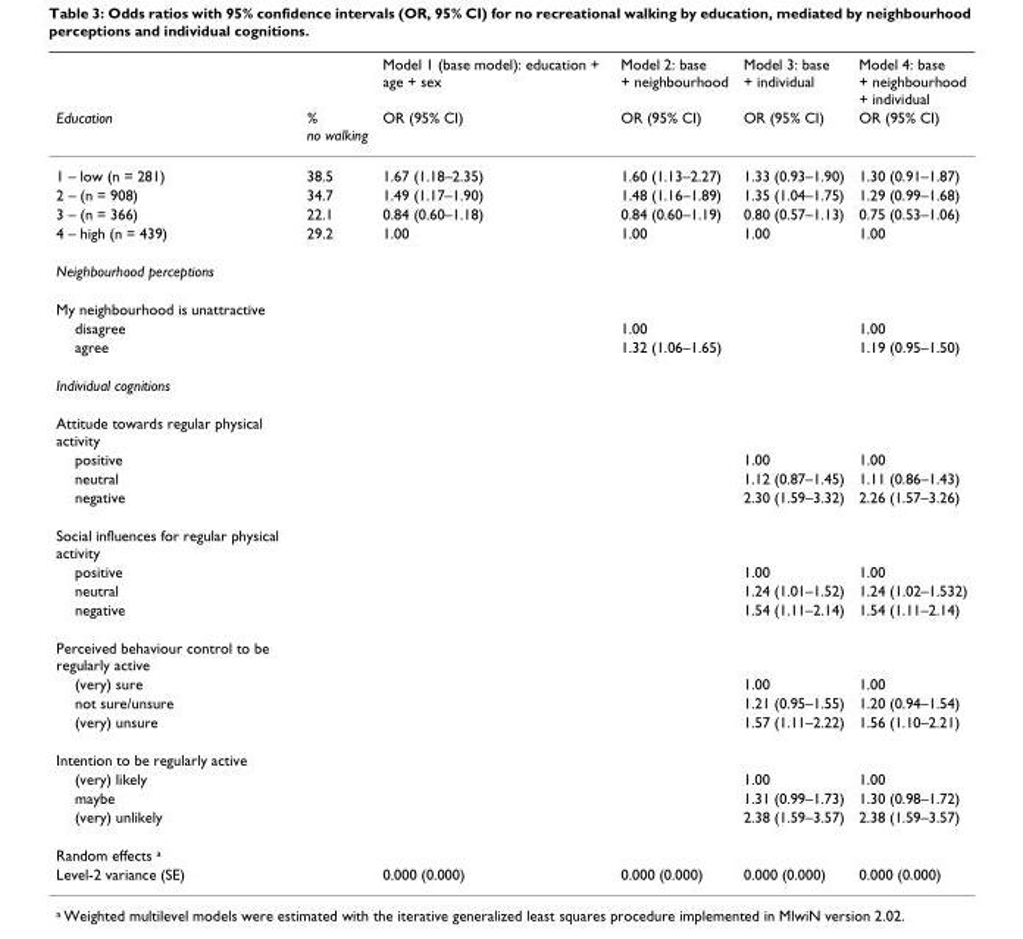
<table><thead><tr><td rowspan="2">Education</td><td rowspan="2">% no walking</td><td rowspan="2">Model 1 (base model): education + age + sex OR (95% CI)</td><td rowspan="2">Model 2: base + neighbourhood OR (95% CI)</td><td rowspan="2">Model 3: base + individual OR (95% CI)</td><td rowspan="2">Model 4: base + neighbourhood + individual OR (95% CI)</td></tr><tr></tr></thead><tbody><tr><td>1 – low (n = 281)</td><td>38.5</td><td>1.67 (1.18–2.35)</td><td>1.60 (1.13–2.27)</td><td>1.33 (0.93–1.90)</td><td>1.30 (0.91–1.87)</td></tr><tr><td>2 – (n = 908)</td><td>34.7</td><td>1.49 (1.17–1.90)</td><td>1.48 (1.16–1.89)</td><td>1.35 (1.04–1.75)</td><td>1.29 (0.99–1.68)</td></tr><tr><td>3 – (n = 366)</td><td>22.1</td><td>0.84 (0.60–1.18)</td><td>0.84 (0.60–1.19)</td><td>0.80 (0.57–1.13)</td><td>0.75 (0.53–1.06)</td></tr><tr><td>4 – high (n = 439)</td><td>29.2</td><td>1.00</td><td>1.00</td><td>1.00</td><td>1.00</td></tr><tr><td colspan="6">Neighbourhood perceptions</td></tr><tr><td colspan="6">My neighbourhood is unattractive</td></tr><tr><td>disagree</td><td></td><td></td><td>1.00</td><td></td><td>1.00</td></tr><tr><td>agree</td><td></td><td></td><td>1.32 (1.06–1.65)</td><td></td><td>1.19 (0.95–1.50)</td></tr><tr><td colspan="6">Individual cognitions</td></tr><tr><td colspan="6">Attitude towards regular physical activity</td></tr><tr><td>positive</td><td></td><td></td><td></td><td>1.00</td><td>1.00</td></tr><tr><td>neutral</td><td></td><td></td><td></td><td>1.12 (0.87–1.45)</td><td>1.11 (0.86–1.43)</td></tr><tr><td>negative</td><td></td><td></td><td></td><td>2.30 (1.59–3.32)</td><td>2.26 (1.57–3.26)</td></tr><tr><td colspan="6">Social influences for regular physical activity</td></tr><tr><td>positive</td><td></td><td></td><td></td><td>1.00</td><td>1.00</td></tr><tr><td>neutral</td><td></td><td></td><td></td><td>1.24 (1.01–1.52)</td><td>1.24 (1.02–1.532)</td></tr><tr><td>negative</td><td></td><td></td><td></td><td>1.54 (1.11–2.14)</td><td>1.54 (1.11–2.14)</td></tr><tr><td colspan="6">Perceived behaviour control to be regularly active</td></tr><tr><td>(very) sure</td><td></td><td></td><td></td><td>1.00</td><td>1.00</td></tr><tr><td>not sure/unsure</td><td></td><td></td><td></td><td>1.21 (0.95–1.55)</td><td>1.20 (0.94–1.54)</td></tr><tr><td>(very) unsure</td><td></td><td></td><td></td><td>1.57 (1.11–2.22)</td><td>1.56 (1.10–2.21)</td></tr><tr><td colspan="6">Intention to be regularly active</td></tr><tr><td>(very) likely</td><td></td><td></td><td></td><td>1.00</td><td>1.00</td></tr><tr><td>maybe</td><td></td><td></td><td></td><td>1.31 (0.99–1.73)</td><td>1.30 (0.98–1.72)</td></tr><tr><td>(very) unlikely</td><td></td><td></td><td></td><td>2.38 (1.59–3.57)</td><td>2.38 (1.59–3.57)</td></tr><tr><td colspan="6">Random effects <sup>a</sup></td></tr><tr><td>Level-2 variance (SE)</td><td></td><td>0.000 (0.000)</td><td>0.000 (0.000)</td><td>0.000 (0.000)</td><td>0.000 (0.000)</td></tr></tbody></table>